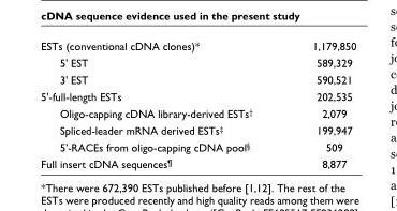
<table><tbody><tr><td>ESTs (conventional cDNA clones)*</td><td>1,179,850</td></tr><tr><td>5&#x27; EST</td><td>589,329</td></tr><tr><td>3&#x27; EST</td><td>590,521</td></tr><tr><td>5&#x27;-full-length ESTs</td><td>202,535</td></tr><tr><td>Oligo-capping cDNA library-derived ESTs<sup>†</sup></td><td>2,079</td></tr><tr><td>Spliced-leader mRNA derived ESTs<sup>‡</sup></td><td>199,947</td></tr><tr><td>5&#x27;-RACEs from oligo-capping cDNA pool<sup>§</sup></td><td>509</td></tr><tr><td>Full insert cDNA sequences<sup>¶</sup></td><td>8,877</td></tr></tbody></table>